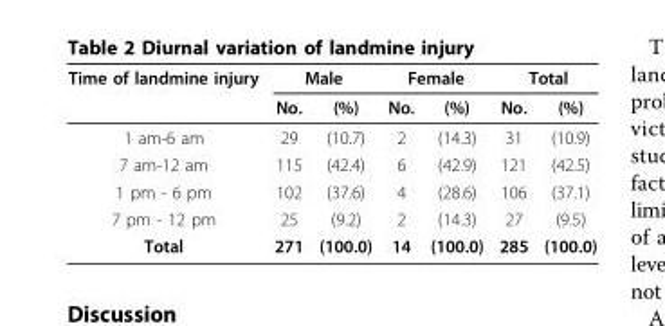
<table><thead><tr><td rowspan="2">Time of landmine injury</td><td colspan="2">Male</td><td colspan="2">Female</td><td colspan="2">Total</td></tr><tr><td>No.</td><td>(%)</td><td>No.</td><td>(%)</td><td>No.</td><td>(%)</td></tr></thead><tbody><tr><td>1 am-6 am</td><td>29</td><td>(10.7)</td><td>2</td><td>(14.3)</td><td>31</td><td>(10.9)</td></tr><tr><td>7 am-12 am</td><td>115</td><td>(42.4)</td><td>6</td><td>(42.9)</td><td>121</td><td>(42.5)</td></tr><tr><td>1 pm - 6 pm</td><td>102</td><td>(37.6)</td><td>4</td><td>(28.6)</td><td>106</td><td>(37.1)</td></tr><tr><td>7 pm - 12 pm</td><td>25</td><td>(9.2)</td><td>2</td><td>(14.3)</td><td>27</td><td>(9.5)</td></tr><tr><td>Total</td><td>271</td><td>(100.0)</td><td>14</td><td>(100.0)</td><td>285</td><td>(100.0)</td></tr></tbody></table>